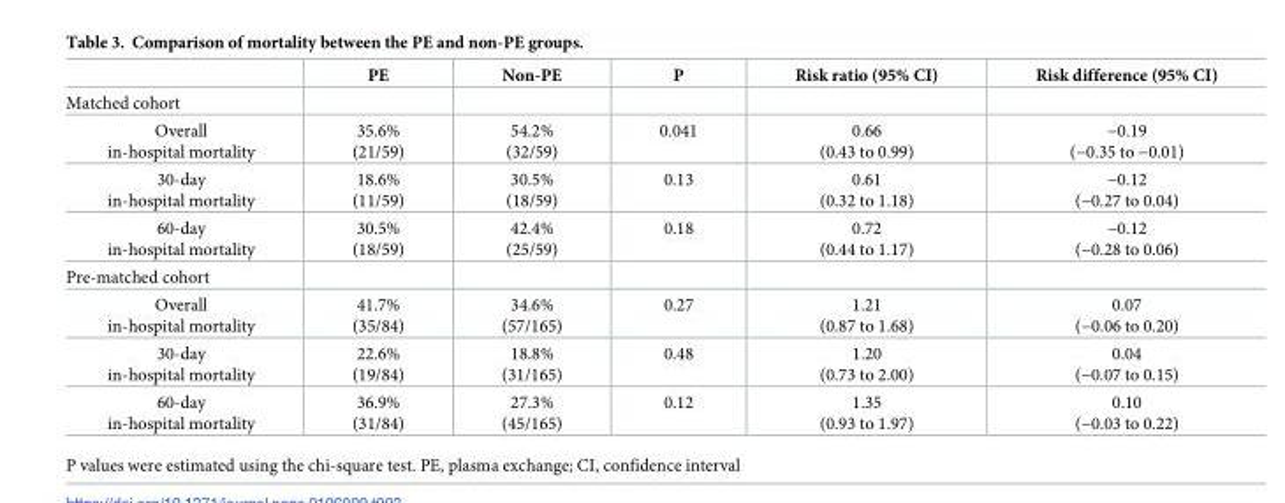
<table><thead><tr><td></td><td>PE</td><td>Non-PE</td><td>P</td><td>Risk ratio (95% CI)</td><td>Risk difference (95% CI)</td></tr></thead><tbody><tr><td colspan="6">Matched cohort</td></tr><tr><td>Overall in-hospital mortality</td><td>35.6% (21/59)</td><td>54.2% (32/59)</td><td>0.041</td><td>0.66 (0.43 to 0.99)</td><td>−0.19 (−0.35 to −0.01)</td></tr><tr><td>30-day in-hospital mortality</td><td>18.6% (11/59)</td><td>30.5% (18/59)</td><td>0.13</td><td>0.61 (0.32 to 1.18)</td><td>−0.12 (−0.27 to 0.04)</td></tr><tr><td>60-day in-hospital mortality</td><td>30.5% (18/59)</td><td>42.4% (25/59)</td><td>0.18</td><td>0.72 (0.44 to 1.17)</td><td>−0.12 (−0.28 to 0.06)</td></tr><tr><td colspan="6">Pre-matched cohort</td></tr><tr><td>Overall in-hospital mortality</td><td>41.7% (35/84)</td><td>34.6% (57/165)</td><td>0.27</td><td>1.21 (0.87 to 1.68)</td><td>0.07 (−0.06 to 0.20)</td></tr><tr><td>30-day in-hospital mortality</td><td>22.6% (19/84)</td><td>18.8% (31/165)</td><td>0.48</td><td>1.20 (0.73 to 2.00)</td><td>0.04 (−0.07 to 0.15)</td></tr><tr><td>60-day in-hospital mortality</td><td>36.9% (31/84)</td><td>27.3% (45/165)</td><td>0.12</td><td>1.35 (0.93 to 1.97)</td><td>0.10 (−0.03 to 0.22)</td></tr></tbody></table>